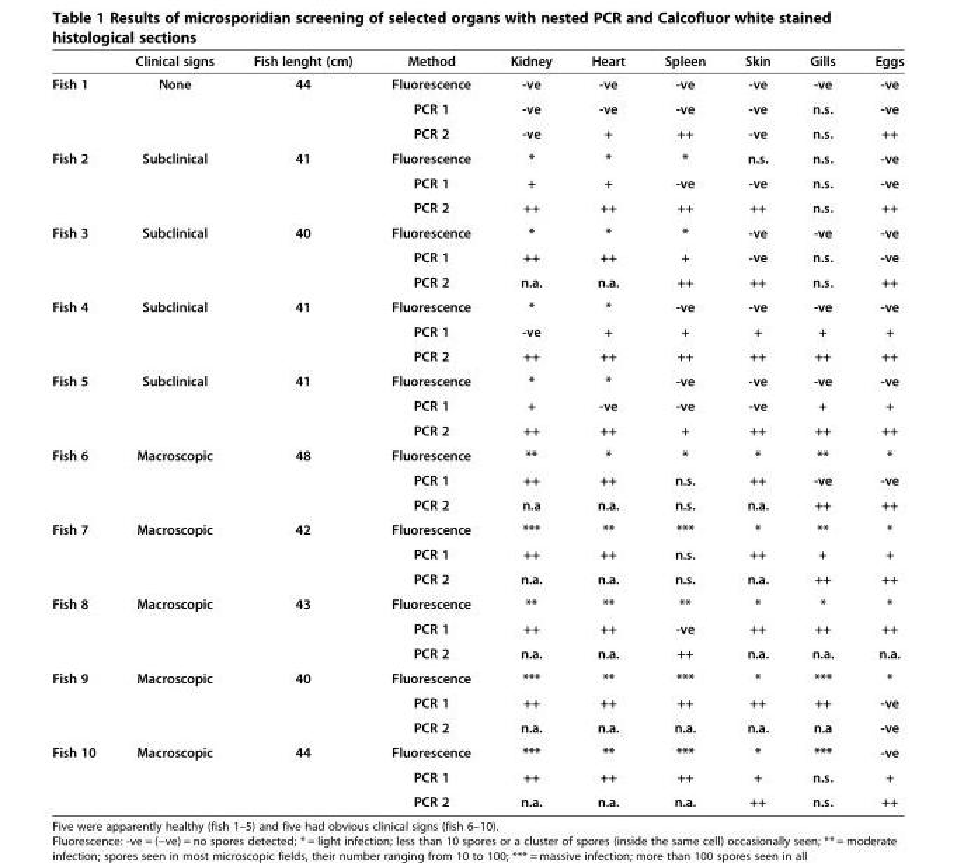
<table><thead><tr><td></td><td>Clinical signs</td><td>Fish lenght (cm)</td><td>Method</td><td>Kidney</td><td>Heart</td><td>Spleen</td><td>Skin</td><td>Gills</td><td>Eggs</td></tr></thead><tbody><tr><td rowspan="3">Fish 1</td><td rowspan="3">None</td><td rowspan="3">44</td><td>Fluorescence</td><td>-ve</td><td>-ve</td><td>-ve</td><td>-ve</td><td>-ve</td><td>-ve</td></tr><tr><td>PCR 1</td><td>-ve</td><td>-ve</td><td>-ve</td><td>-ve</td><td>n.s.</td><td>-ve</td></tr><tr><td>PCR 2</td><td>-ve</td><td>+</td><td>++</td><td>-ve</td><td>n.s.</td><td>++</td></tr><tr><td rowspan="3">Fish 2</td><td rowspan="3">Subclinical</td><td rowspan="3">41</td><td>Fluorescence</td><td>*</td><td>*</td><td>*</td><td>n.s.</td><td>n.s.</td><td>-ve</td></tr><tr><td>PCR 1</td><td>+</td><td>+</td><td>-ve</td><td>-ve</td><td>n.s.</td><td>-ve</td></tr><tr><td>PCR 2</td><td>++</td><td>++</td><td>++</td><td>++</td><td>n.s.</td><td>++</td></tr><tr><td rowspan="3">Fish 3</td><td rowspan="3">Subclinical</td><td rowspan="3">40</td><td>Fluorescence</td><td>*</td><td>*</td><td>*</td><td>-ve</td><td>-ve</td><td>-ve</td></tr><tr><td>PCR 1</td><td>++</td><td>++</td><td>+</td><td>-ve</td><td>n.s.</td><td>-ve</td></tr><tr><td>PCR 2</td><td>n.a.</td><td>n.a.</td><td>++</td><td>++</td><td>n.s.</td><td>++</td></tr><tr><td rowspan="3">Fish 4</td><td rowspan="3">Subclinical</td><td rowspan="3">41</td><td>Fluorescence</td><td>*</td><td>*</td><td>-ve</td><td>-ve</td><td>-ve</td><td>-ve</td></tr><tr><td>PCR 1</td><td>-ve</td><td>+</td><td>+</td><td>+</td><td>+</td><td>+</td></tr><tr><td>PCR 2</td><td>++</td><td>++</td><td>++</td><td>++</td><td>++</td><td>++</td></tr><tr><td rowspan="3">Fish 5</td><td rowspan="3">Subclinical</td><td rowspan="3">41</td><td>Fluorescence</td><td>*</td><td>*</td><td>-ve</td><td>-ve</td><td>-ve</td><td>-ve</td></tr><tr><td>PCR 1</td><td>+</td><td>-ve</td><td>-ve</td><td>-ve</td><td>+</td><td>+</td></tr><tr><td>PCR 2</td><td>++</td><td>++</td><td>+</td><td>++</td><td>++</td><td>++</td></tr><tr><td rowspan="3">Fish 6</td><td rowspan="3">Macroscopic</td><td rowspan="3">48</td><td>Fluorescence</td><td>**</td><td>*</td><td>*</td><td>*</td><td>**</td><td>*</td></tr><tr><td>PCR 1</td><td>++</td><td>++</td><td>n.s.</td><td>++</td><td>-ve</td><td>-ve</td></tr><tr><td>PCR 2</td><td>n.a</td><td>n.a.</td><td>n.s.</td><td>n.a.</td><td>++</td><td>++</td></tr><tr><td rowspan="3">Fish 7</td><td rowspan="3">Macroscopic</td><td rowspan="3">42</td><td>Fluorescence</td><td>***</td><td>**</td><td>***</td><td>*</td><td>**</td><td>*</td></tr><tr><td>PCR 1</td><td>++</td><td>++</td><td>n.s.</td><td>++</td><td>+</td><td>+</td></tr><tr><td>PCR 2</td><td>n.a.</td><td>n.a.</td><td>n.s.</td><td>n.a.</td><td>++</td><td>++</td></tr><tr><td rowspan="3">Fish 8</td><td rowspan="3">Macroscopic</td><td rowspan="3">43</td><td>Fluorescence</td><td>**</td><td>**</td><td>**</td><td>*</td><td>*</td><td>*</td></tr><tr><td>PCR 1</td><td>++</td><td>++</td><td>-ve</td><td>++</td><td>++</td><td>++</td></tr><tr><td>PCR 2</td><td>n.a.</td><td>n.a.</td><td>++</td><td>n.a.</td><td>n.a.</td><td>n.a.</td></tr><tr><td rowspan="3">Fish 9</td><td rowspan="3">Macroscopic</td><td rowspan="3">40</td><td>Fluorescence</td><td>***</td><td>**</td><td>***</td><td>*</td><td>***</td><td>*</td></tr><tr><td>PCR 1</td><td>++</td><td>++</td><td>++</td><td>++</td><td>++</td><td>-ve</td></tr><tr><td>PCR 2</td><td>n.a.</td><td>n.a.</td><td>n.a.</td><td>n.a.</td><td>n.a</td><td>-ve</td></tr><tr><td rowspan="3">Fish 10</td><td rowspan="3">Macroscopic</td><td rowspan="3">44</td><td>Fluorescence</td><td>***</td><td>**</td><td>***</td><td>*</td><td>***</td><td>-ve</td></tr><tr><td>PCR 1</td><td>++</td><td>++</td><td>++</td><td>+</td><td>n.s.</td><td>+</td></tr><tr><td>PCR 2</td><td>n.a.</td><td>n.a.</td><td>n.a.</td><td>++</td><td>n.s.</td><td>++</td></tr></tbody></table>